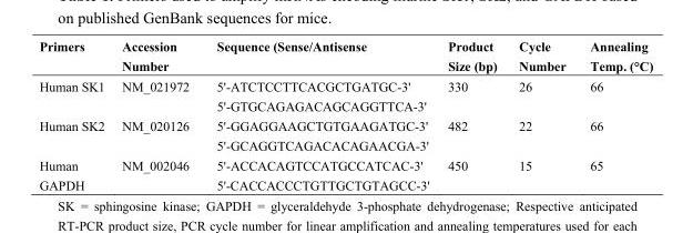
<table><thead><tr><td>Primers</td><td>Accession Number</td><td>Sequence (Sense/Antisense</td><td>Product Size (bp)</td><td>Cycle Number</td><td>Annealing Temp. (°C)</td></tr></thead><tbody><tr><td>Human SK1</td><td>NM_021972</td><td>5&#x27;-ATCTCCTTCACGCTGATGC-3&#x27; 5&#x27;-GTGCAGAGACAGCAGGTTCA-3&#x27;</td><td>330</td><td>26</td><td>66</td></tr><tr><td>Human SK2</td><td>NM_020126</td><td>5&#x27;-GGAGGAAGCTGTGAAGATGC-3&#x27; 5&#x27;-GCAGGTCAGACACAGAACGA-3&#x27;</td><td>482</td><td>22</td><td>66</td></tr><tr><td>Human GAPDH</td><td>NM_002046</td><td>5&#x27;-ACCACAGTCCATGCCATCAC-3&#x27; 5&#x27;-CACCACCCTGTTGCTGTAGCC-3&#x27;</td><td>450</td><td>15</td><td>65</td></tr></tbody></table>